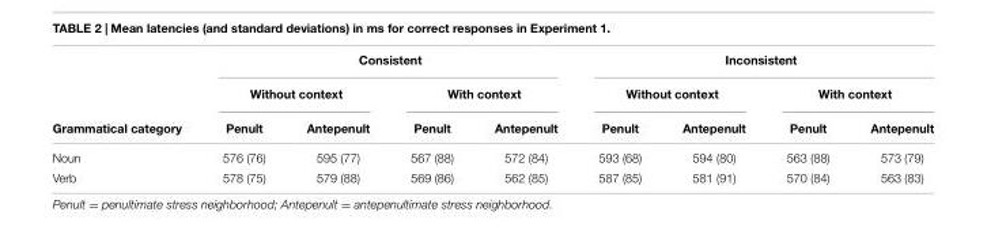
<table><thead><tr><td rowspan="3">Grammatical category</td><td colspan="4">Consistent</td><td colspan="4">Inconsistent</td></tr><tr><td colspan="2">Without context</td><td colspan="2">With context</td><td colspan="2">Without context</td><td colspan="2">With context</td></tr><tr><td>Penult</td><td>Antepenult</td><td>Penult</td><td>Antepenult</td><td>Penult</td><td>Antepenult</td><td>Penult</td><td>Antepenult</td></tr></thead><tbody><tr><td>Noun</td><td>576 (76)</td><td>595 (77)</td><td>567 (88)</td><td>572 (84)</td><td>593 (68)</td><td>594 (80)</td><td>563 (88)</td><td>573 (79)</td></tr><tr><td>Verb</td><td>578 (75)</td><td>579 (88)</td><td>569 (86)</td><td>562 (85)</td><td>587 (85)</td><td>581 (91)</td><td>570 (84)</td><td>563 (83)</td></tr></tbody></table>